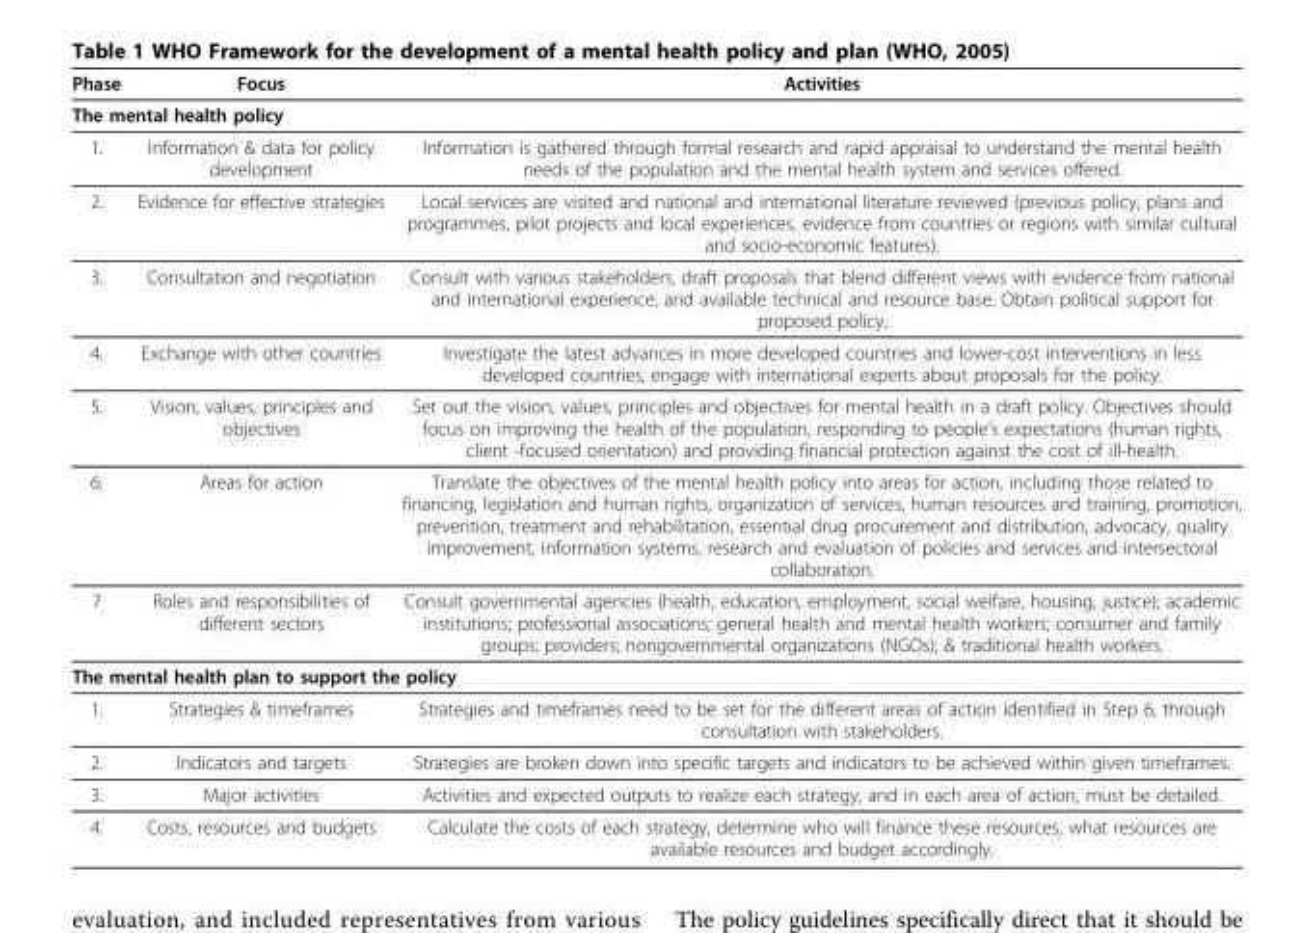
<table><thead><tr><td>Phase</td><td>Focus</td><td>Activities</td></tr></thead><tbody><tr><td colspan="3">The mental health policy</td></tr><tr><td>1.</td><td>Information &amp; data for policy development</td><td>Information is gathered through formal research and rapid appraisal to understand the mental health needs of the population and the mental health system and services offered.</td></tr><tr><td>2.</td><td>Evidence for effective strategies</td><td>Local services are visited and national and international literature reviewed (previous policy, plans and programmes, pilot projects and local experiences, evidence from countries or regions with similar cultural and socio-economic features).</td></tr><tr><td>3.</td><td>Consultation and negotiation</td><td>Consult with various stakeholders, draft proposals that blend different views with evidence from national and international experience, and available technical and resource base. Obtain political support for proposed policy.</td></tr><tr><td>4.</td><td>Exchange with other countries</td><td>Investigate the latest advances in more developed countries and lower-cost interventions in less developed countries, engage with international experts about proposals for the policy.</td></tr><tr><td>5.</td><td>Vision, values, principles and objectives</td><td>Set out the vision, values, principles and objectives for mental health in a draft policy. Objectives should focus on improving the health of the population, responding to people’s expectations (human rights, client -focused orientation) and providing financial protection against the cost of ill-health.</td></tr><tr><td>6.</td><td>Areas for action</td><td>Translate the objectives of the mental health policy into areas for action, including those related to financing, legislation and human rights, organization of services, human resources and training, promotion, prevention, treatment and rehabilitation, essential drug procurement and distribution, advocacy, quality improvement, information systems, research and evaluation of policies and services and intersectoral collaboration.</td></tr><tr><td>7</td><td>Roles and responsibilities of different sectors</td><td>Consult governmental agencies (health, education, employment, social welfare, housing, justice); academic institutions; professional associations; general health and mental health workers; consumer and family groups; providers; nongovernmental organizations (NGOs); &amp; traditional health workers.</td></tr><tr><td colspan="3">The mental health plan to support the policy</td></tr><tr><td>1.</td><td>Strategies &amp; timeframes</td><td>Strategies and timeframes need to be set for the different areas of action identified in Step 6, through consultation with stakeholders.</td></tr><tr><td>2.</td><td>Indicators and targets</td><td>Strategies are broken down into specific targets and indicators to be achieved within given timeframes.</td></tr><tr><td>3.</td><td>Major activities</td><td>Activities and expected outputs to realize each strategy, and in each area of action, must be detailed.</td></tr><tr><td>4.</td><td>Costs, resources and budgets</td><td>Calculate the costs of each strategy, determine who will finance these resources, what resources are available resources and budget accordingly.</td></tr></tbody></table>